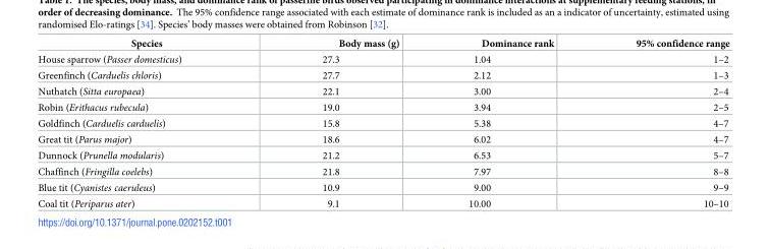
<table><thead><tr><td>Species</td><td>Body mass (g)</td><td>Dominance rank</td><td>95% confidence range</td></tr></thead><tbody><tr><td>House sparrow (Passer domesticus)</td><td>27.3</td><td>1.04</td><td>1–2</td></tr><tr><td>Greenfinch (Carduelis chloris)</td><td>27.7</td><td>2.12</td><td>1–3</td></tr><tr><td>Nuthatch (Sitta europaea)</td><td>22.1</td><td>3.00</td><td>2–4</td></tr><tr><td>Robin (Erithacus rubecula)</td><td>19.0</td><td>3.94</td><td>2–5</td></tr><tr><td>Goldfinch (Carduelis carduelis)</td><td>15.8</td><td>5.38</td><td>4–7</td></tr><tr><td>Great tit (Parus major)</td><td>18.6</td><td>6.02</td><td>4–7</td></tr><tr><td>Dunnock (Prunella modularis)</td><td>21.2</td><td>6.53</td><td>5–7</td></tr><tr><td>Chaffinch (Fringilla coelebs)</td><td>21.8</td><td>7.97</td><td>8–8</td></tr><tr><td>Blue tit (Cyanistes caeruleus)</td><td>10.9</td><td>9.00</td><td>9–9</td></tr><tr><td>Coal tit (Periparus ater)</td><td>9.1</td><td>10.00</td><td>10–10</td></tr></tbody></table>